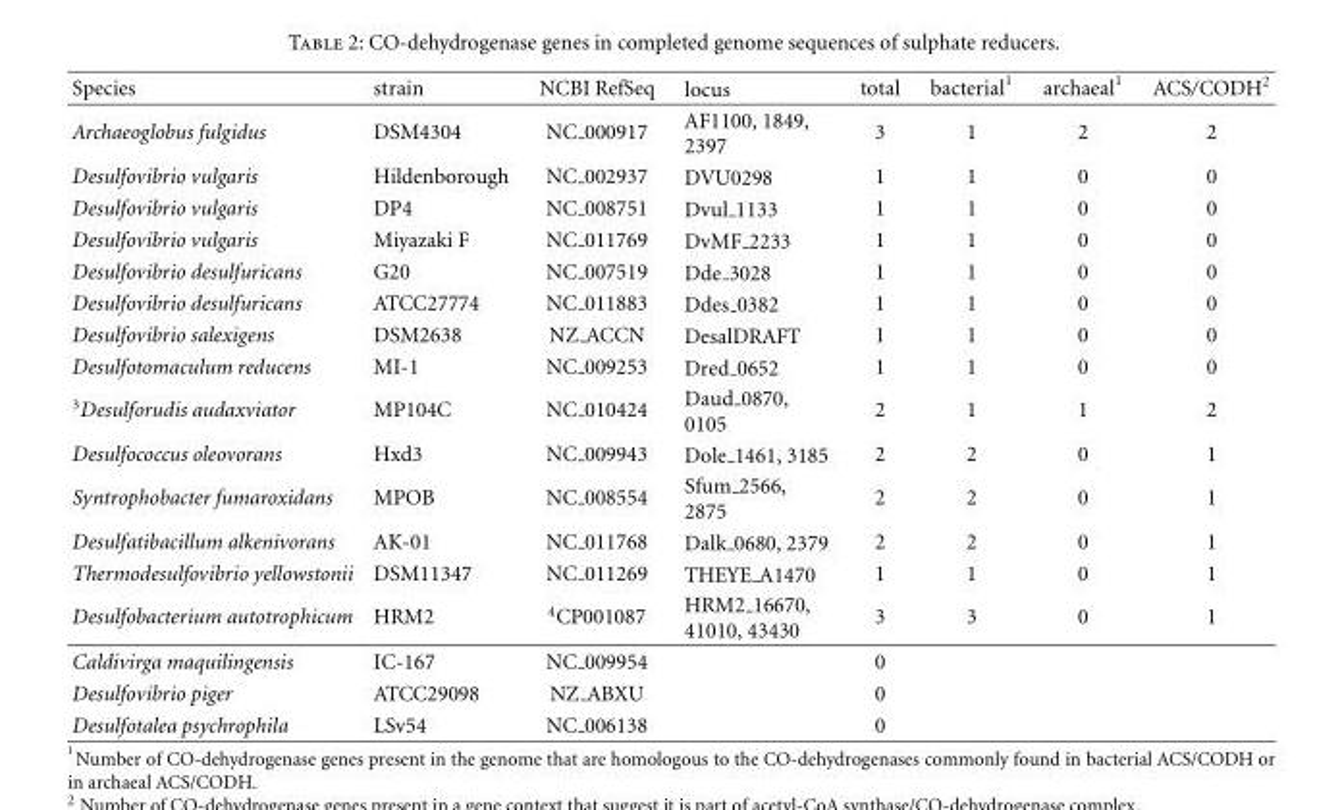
<table><thead><tr><td>Species</td><td>strain</td><td>NCBI RefSeq</td><td>locus</td><td>total</td><td>bacterial<sup>1</sup></td><td>archaeal<sup>1</sup></td><td>ACS/CODH<sup>2</sup></td></tr></thead><tbody><tr><td>Archaeoglobus fulgidus</td><td>DSM4304</td><td>NC 000917</td><td>AF1100, 1849, 2397</td><td>3</td><td>1</td><td>2</td><td>2</td></tr><tr><td>Desulfovibrio vulgaris</td><td>Hildenborough</td><td>NC 002937</td><td>DVU0298</td><td>1</td><td>1</td><td>0</td><td>0</td></tr><tr><td>Desulfovibrio vulgaris</td><td>DP4</td><td>NC 008751</td><td>Dvul 1133</td><td>1</td><td>1</td><td>0</td><td>0</td></tr><tr><td>Desulfovibrio vulgaris</td><td>Miyazaki F</td><td>NC 011769</td><td>DvMF 2233</td><td>1</td><td>1</td><td>0</td><td>0</td></tr><tr><td>Desulfovibrio desulfuricans</td><td>G20</td><td>NC 007519</td><td>Dde 3028</td><td>1</td><td>1</td><td>0</td><td>0</td></tr><tr><td>Desulfovibrio desulfuricans</td><td>ATCC27774</td><td>NC 011883</td><td>Ddes 0382</td><td>1</td><td>1</td><td>0</td><td>0</td></tr><tr><td>Desulfovibrio salexigens</td><td>DSM2638</td><td>NZ ACCN</td><td>DesalDRAFT</td><td>1</td><td>1</td><td>0</td><td>0</td></tr><tr><td>Desulfotomaculum reducens</td><td>MI-1</td><td>NC 009253</td><td>Dred 0652</td><td>1</td><td>1</td><td>0</td><td>0</td></tr><tr><td><sup>3</sup>Desulforudis audaxviator</td><td>MP104C</td><td>NC 010424</td><td>Daud 0870, 0105</td><td>2</td><td>1</td><td>1</td><td>2</td></tr><tr><td>Desulfococcus oleovorans</td><td>Hxd3</td><td>NC 009943</td><td>Dole 1461, 3185</td><td>2</td><td>2</td><td>0</td><td>1</td></tr><tr><td>Syntrophobacter fumaroxidans</td><td>MPOB</td><td>NC 008554</td><td>Sfum 2566, 2875</td><td>2</td><td>2</td><td>0</td><td>1</td></tr><tr><td>Desulfatibacillum alkenivorans</td><td>AK-01</td><td>NC 011768</td><td>Dalk 0680, 2379</td><td>2</td><td>2</td><td>0</td><td>1</td></tr><tr><td>Thermodesulfovibrio yellowstonii</td><td>DSM11347</td><td>NC 011269</td><td>THEYE A1470</td><td>1</td><td>1</td><td>0</td><td>1</td></tr><tr><td>Desulfobacterium autotrophicum</td><td>HRM2</td><td><sup>4</sup>CP001087</td><td>HRM2 16670, 41010, 43430</td><td>3</td><td>3</td><td>0</td><td>1</td></tr><tr><td>Caldivirga maquilingensis</td><td>IC-167</td><td>NC 009954</td><td></td><td>0</td><td></td><td></td><td></td></tr><tr><td>Desulfovibrio piger</td><td>ATCC29098</td><td>NZ ABXU</td><td></td><td>0</td><td></td><td></td><td></td></tr><tr><td>Desulfotalea psychrophila</td><td>LSv54</td><td>NC 006138</td><td></td><td>0</td><td></td><td></td><td></td></tr></tbody></table>